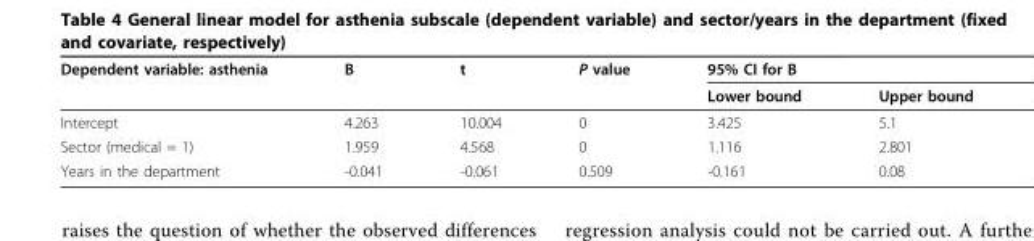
<table><thead><tr><td rowspan="2">Dependent variable: asthenia</td><td rowspan="2">B</td><td rowspan="2">t</td><td rowspan="2">P value</td><td colspan="2">95% CI for B</td></tr><tr><td>Lower bound</td><td>Upper bound</td></tr></thead><tbody><tr><td>Intercept</td><td>4.263</td><td>10.004</td><td>0</td><td>3.425</td><td>5.1</td></tr><tr><td>Sector (medical = 1)</td><td>1.959</td><td>4.568</td><td>0</td><td>1.116</td><td>2.801</td></tr><tr><td>Years in the department</td><td>-0.041</td><td>-0.061</td><td>0.509</td><td>-0.161</td><td>0.08</td></tr></tbody></table>